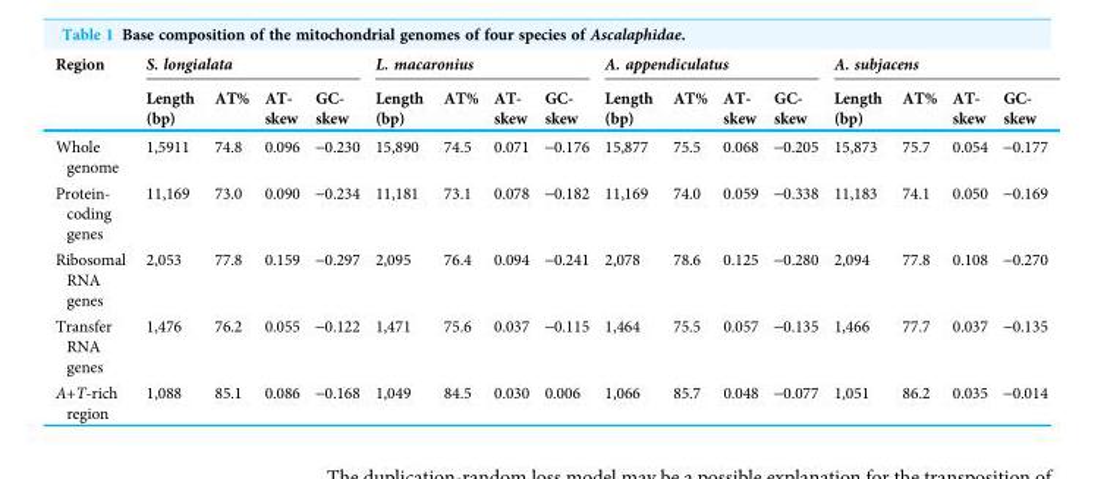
<table><thead><tr><td rowspan="2">Region</td><td colspan="4">S. longialata</td><td colspan="4">L. macaronius</td><td colspan="4">A. appendiculatus</td><td colspan="4">A. subjacens</td></tr><tr><td>Length (bp)</td><td>AT%</td><td>AT- skew</td><td>GC- skew</td><td>Length (bp)</td><td>AT%</td><td>AT- skew</td><td>GC- skew</td><td>Length (bp)</td><td>AT%</td><td>AT- skew</td><td>GC- skew</td><td>Length (bp)</td><td>AT%</td><td>AT- skew</td><td>GC- skew</td></tr></thead><tbody><tr><td>Whole genome</td><td>1,5911</td><td>74.8</td><td>0.096</td><td>-0.230</td><td>15,890</td><td>74.5</td><td>0.071</td><td>-0.176</td><td>15,877</td><td>75.5</td><td>0.068</td><td>-0.205</td><td>15,873</td><td>75.7</td><td>0.054</td><td>-0.177</td></tr><tr><td>Protein- coding genes</td><td>11,169</td><td>73.0</td><td>0.090</td><td>-0.234</td><td>11,181</td><td>73.1</td><td>0.078</td><td>-0.182</td><td>11,169</td><td>74.0</td><td>0.059</td><td>-0.338</td><td>11,183</td><td>74.1</td><td>0.050</td><td>-0.169</td></tr><tr><td>Ribosomal RNA genes</td><td>2,053</td><td>77.8</td><td>0.159</td><td>-0.297</td><td>2,095</td><td>76.4</td><td>0.094</td><td>-0.241</td><td>2,078</td><td>78.6</td><td>0.125</td><td>-0.280</td><td>2,094</td><td>77.8</td><td>0.108</td><td>-0.270</td></tr><tr><td>Transfer RNA genes</td><td>1,476</td><td>76.2</td><td>0.055</td><td>-0.122</td><td>1,471</td><td>75.6</td><td>0.037</td><td>-0.115</td><td>1,464</td><td>75.5</td><td>0.057</td><td>-0.135</td><td>1,466</td><td>77.7</td><td>0.037</td><td>-0.135</td></tr><tr><td>A+T-rich region</td><td>1,088</td><td>85.1</td><td>0.086</td><td>-0.168</td><td>1,049</td><td>84.5</td><td>0.030</td><td>0.006</td><td>1,066</td><td>85.7</td><td>0.048</td><td>-0.077</td><td>1,051</td><td>86.2</td><td>0.035</td><td>-0.014</td></tr></tbody></table>